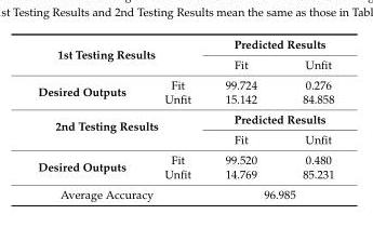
<table><tbody><tr><td rowspan="2" colspan="2">1st Testing Results</td><td colspan="2">Predicted Results</td></tr><tr><td>Fit</td><td>Unfit</td></tr><tr><td rowspan="2">Desired Outputs</td><td>Fit</td><td>99.724</td><td>0.276</td></tr><tr><td>Unfit</td><td>15.142</td><td>84.858</td></tr><tr><td rowspan="2" colspan="2">2nd Testing Results</td><td colspan="2">Predicted Results</td></tr><tr><td>Fit</td><td>Unfit</td></tr><tr><td rowspan="2">Desired Outputs</td><td>Fit</td><td>99.520</td><td>0.480</td></tr><tr><td>Unfit</td><td>14.769</td><td>85.231</td></tr><tr><td colspan="2">Average Accuracy</td><td colspan="2">96.985</td></tr></tbody></table>